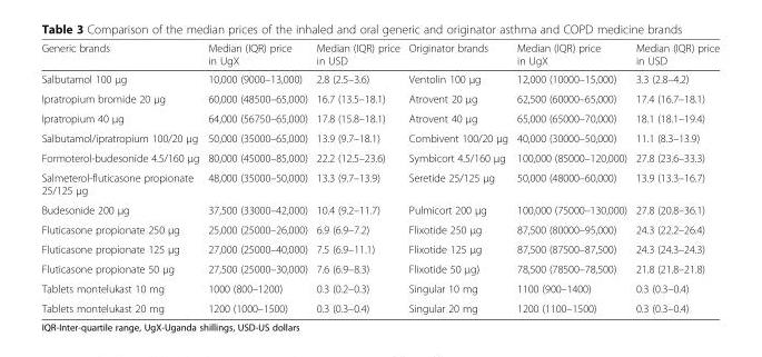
<table><thead><tr><td>Generic brands</td><td>Median (IQR) price in UgX</td><td>Median (IQR) price in USD</td><td>Originator brands</td><td>Median (IQR) price in UgX</td><td>Median (IQR) price in USD</td></tr></thead><tbody><tr><td>Salbutamol 100 μg</td><td>10,000 (9000–13,000)</td><td>2.8 (2.5–3.6)</td><td>Ventolin 100 μg</td><td>12,000 (10000–15,000)</td><td>3.3 (2.8–4.2)</td></tr><tr><td>Ipratropium bromide 20 μg</td><td>60,000 (48500–65,000)</td><td>16.7 (13.5–18.1)</td><td>Atrovent 20 μg</td><td>62,500 (60000–65,000)</td><td>17.4 (16.7–18.1)</td></tr><tr><td>Ipratropium 40 μg</td><td>64,000 (56750–65,000)</td><td>17.8 (15.8–18.1)</td><td>Atrovent 40 μg</td><td>65,000 (65000–70,000)</td><td>18.1 (18.1–19.4)</td></tr><tr><td>Salbutamol/ipratropium 100/20 μg</td><td>50,000 (35000–65,000)</td><td>13.9 (9.7–18.1)</td><td>Combivent 100/20 μg</td><td>40,000 (30000–50,000)</td><td>11.1 (8.3–13.9)</td></tr><tr><td>Formoterol-budesonide 4.5/160 μg</td><td>80,000 (45000–85,000)</td><td>22.2 (12.5–23.6)</td><td>Symbicort 4.5/160 μg</td><td>100,000 (85000–120,000)</td><td>27.8 (23.6–33.3)</td></tr><tr><td>Salmeterol-fluticasone propionate 25/125 μg</td><td>48,000 (35000–50,000)</td><td>13.3 (9.7–13.9)</td><td>Seretide 25/125 μg</td><td>50,000 (48000–60,000)</td><td>13.9 (13.3–16.7)</td></tr><tr><td>Budesonide 200 μg</td><td>37,500 (33000–42,000)</td><td>10.4 (9.2–11.7)</td><td>Pulmicort 200 μg</td><td>100,000 (75000–130,000)</td><td>27.8 (20.8–36.1)</td></tr><tr><td>Fluticasone propionate 250 μg</td><td>25,000 (25000–26,000)</td><td>6.9 (6.9–7.2)</td><td>Flixotide 250 μg</td><td>87,500 (80000–95,000)</td><td>24.3 (22.2–26.4)</td></tr><tr><td>Fluticasone propionate 125 μg</td><td>27,000 (25000–40,000)</td><td>7.5 (6.9–11.1)</td><td>Flixotide 125 μg</td><td>87,500 (87500–87,500)</td><td>24.3 (24.3–24.3)</td></tr><tr><td>Fluticasone propionate 50 μg</td><td>27,500 (25000–30,000)</td><td>7.6 (6.9–8.3)</td><td>Flixotide 50 μg)</td><td>78,500 (78500–78,500)</td><td>21.8 (21.8–21.8)</td></tr><tr><td>Tablets montelukast 10 mg</td><td>1000 (800–1200)</td><td>0.3 (0.2–0.3)</td><td>Singular 10 mg</td><td>1100 (900–1400)</td><td>0.3 (0.3–0.4)</td></tr><tr><td>Tablets montelukast 20 mg</td><td>1200 (1000–1500)</td><td>0.3 (0.3–0.4)</td><td>Singular 20 mg</td><td>1200 (1100–1500)</td><td>0.3 (0.3–0.4)</td></tr></tbody></table>